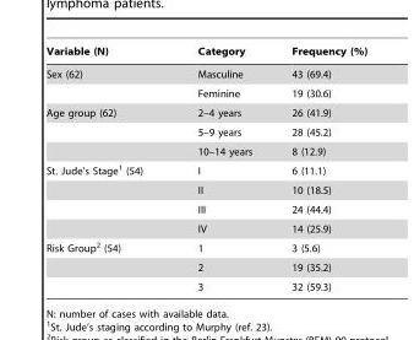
<table><thead><tr><td>Variable (N)</td><td>Category</td><td>Frequency (%)</td></tr></thead><tbody><tr><td rowspan="2">Sex (62)</td><td>Masculine</td><td>43 (69.4)</td></tr><tr><td>Feminine</td><td>19 (30.6)</td></tr><tr><td rowspan="3">Age group (62)</td><td>2–4 years</td><td>26 (41.9)</td></tr><tr><td>5–9 years</td><td>28 (45.2)</td></tr><tr><td>10–14 years</td><td>8 (12.9)</td></tr><tr><td rowspan="4">St. Jude’s Stage<sup>1</sup> (54)</td><td>I</td><td>6 (11.1)</td></tr><tr><td>II</td><td>10 (18.5)</td></tr><tr><td>III</td><td>24 (44.4)</td></tr><tr><td>IV</td><td>14 (25.9)</td></tr><tr><td rowspan="3">Risk Group<sup>2</sup> (54)</td><td>1</td><td>3 (5.6)</td></tr><tr><td>2</td><td>19 (35.2)</td></tr><tr><td>3</td><td>32 (59.3)</td></tr></tbody></table>